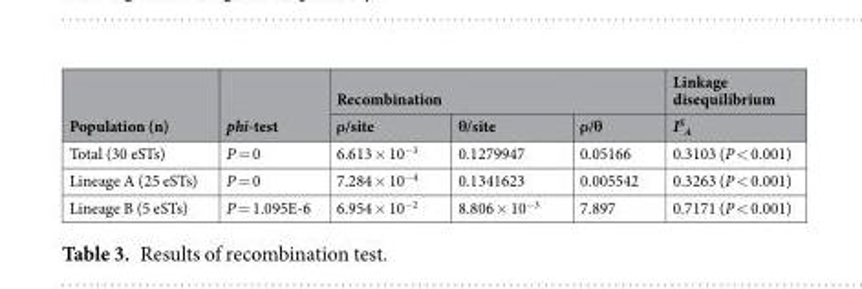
<table><thead><tr><td rowspan="2">Population (n)</td><td rowspan="2">phi-test</td><td colspan="3">Recombination</td><td rowspan="2">Linkage disequilibrium I<sup>S</sup> <sub>A</sub></td></tr><tr><td>ρ/site</td><td>θ/site</td><td>ρ/θ</td></tr></thead><tbody><tr><td>Total (30 eSTs)</td><td>P = 0</td><td>6.613 × 10<sup>−3</sup></td><td>0.1279947</td><td>0.05166</td><td>0.3103 (P &lt; 0.001)</td></tr><tr><td>Lineage A (25 eSTs)</td><td>P = 0</td><td>7.284 × 10<sup>−4</sup></td><td>0.1341623</td><td>0.005542</td><td>0.3263 (P &lt; 0.001)</td></tr><tr><td>Lineage B (5 eSTs)</td><td>P = 1.095E-6</td><td>6.954 × 10<sup>−2</sup></td><td>8.806 × 10<sup>−3</sup></td><td>7.897</td><td>0.7171 (P &lt; 0.001)</td></tr></tbody></table>